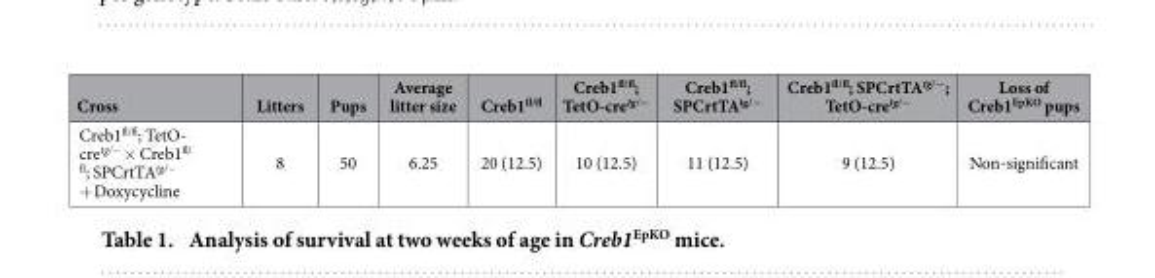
<table><thead><tr><td>Cross</td><td>Litters</td><td>Pups</td><td>Average litter size</td><td>Creb1<sup>fl/fl</sup></td><td>Creb1<sup>fl/fl</sup>; TetO-cre<sup>tg/−</sup></td><td>Creb1<sup>fl/fl</sup>; SPCrtTA<sup>tg/−</sup></td><td>Creb1<sup>fl/fl</sup>; SPCrtTA<sup>tg/−</sup>; TetO-cre<sup>tg/−</sup></td><td>Loss of Creb1<sup>EpKO</sup> pups</td></tr></thead><tbody><tr><td>Creb1<sup>fl/fl</sup>; TetO- cre<sup>tg/−</sup> × Creb1<sup>fl/ fl</sup>; SPCrtTA<sup>tg/−</sup> + Doxycycline</td><td>8</td><td>50</td><td>6.25</td><td>20 (12.5)</td><td>10 (12.5)</td><td>11 (12.5)</td><td>9 (12.5)</td><td>Non-significant</td></tr></tbody></table>